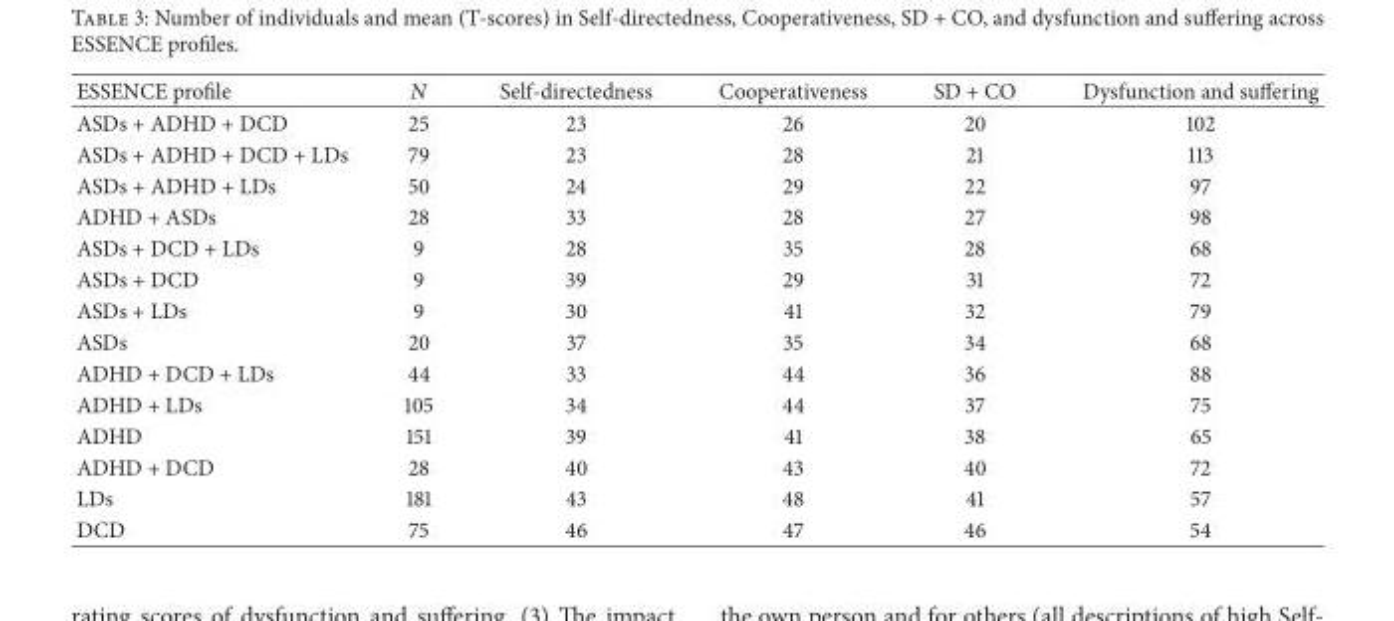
<table><thead><tr><td>ESSENCE profile</td><td>N</td><td>Self-directedness</td><td>Cooperativeness</td><td>SD + CO</td><td>Dysfunction and suffering</td></tr></thead><tbody><tr><td>ASDs + ADHD + DCD</td><td>25</td><td>23</td><td>26</td><td>20</td><td>102</td></tr><tr><td>ASDs + ADHD + DCD + LDs</td><td>79</td><td>23</td><td>28</td><td>21</td><td>113</td></tr><tr><td>ASDs + ADHD + LDs</td><td>50</td><td>24</td><td>29</td><td>22</td><td>97</td></tr><tr><td>ADHD + ASDs</td><td>28</td><td>33</td><td>28</td><td>27</td><td>98</td></tr><tr><td>ASDs + DCD + LDs</td><td>9</td><td>28</td><td>35</td><td>28</td><td>68</td></tr><tr><td>ASDs + DCD</td><td>9</td><td>39</td><td>29</td><td>31</td><td>72</td></tr><tr><td>ASDs + LDs</td><td>9</td><td>30</td><td>41</td><td>32</td><td>79</td></tr><tr><td>ASDs</td><td>20</td><td>37</td><td>35</td><td>34</td><td>68</td></tr><tr><td>ADHD + DCD + LDs</td><td>44</td><td>33</td><td>44</td><td>36</td><td>88</td></tr><tr><td>ADHD + LDs</td><td>105</td><td>34</td><td>44</td><td>37</td><td>75</td></tr><tr><td>ADHD</td><td>151</td><td>39</td><td>41</td><td>38</td><td>65</td></tr><tr><td>ADHD + DCD</td><td>28</td><td>40</td><td>43</td><td>40</td><td>72</td></tr><tr><td>LDs</td><td>181</td><td>43</td><td>48</td><td>41</td><td>57</td></tr><tr><td>DCD</td><td>75</td><td>46</td><td>47</td><td>46</td><td>54</td></tr></tbody></table>